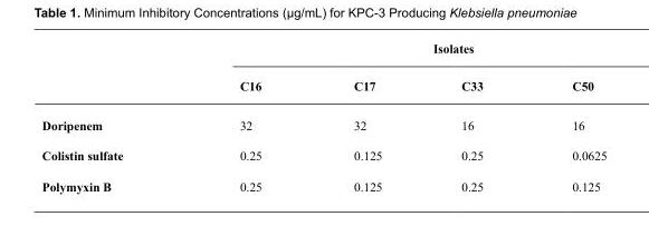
<table><thead><tr><td rowspan="2"></td><td colspan="4">Isolates</td></tr><tr><td>C16</td><td>C17</td><td>C33</td><td>C50</td></tr></thead><tbody><tr><td>Doripenem</td><td>32</td><td>32</td><td>16</td><td>16</td></tr><tr><td>Colistin sulfate</td><td>0.25</td><td>0.125</td><td>0.25</td><td>0.0625</td></tr><tr><td>Polymyxin B</td><td>0.25</td><td>0.125</td><td>0.25</td><td>0.125</td></tr></tbody></table>